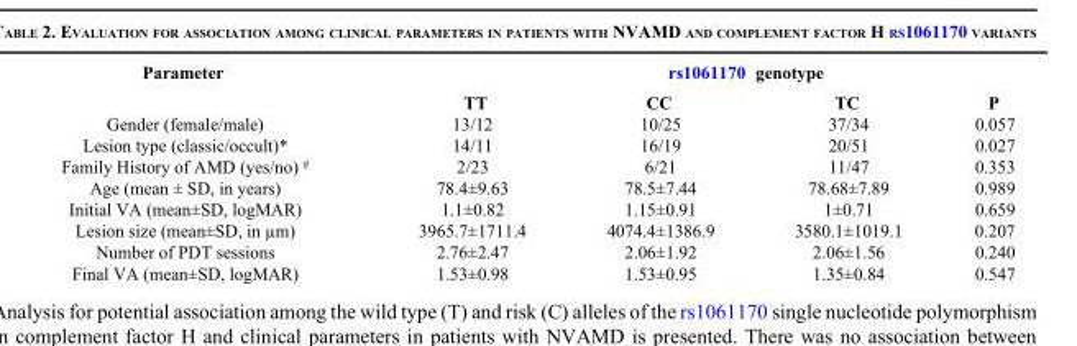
<table><thead><tr><td rowspan="2">Parameter</td><td colspan="4">rs1061170 genotype</td></tr><tr><td>TT</td><td>CC</td><td>TC</td><td>P</td></tr></thead><tbody><tr><td>Gender (female/male)</td><td>13/12</td><td>10/25</td><td>37/34</td><td>0.057</td></tr><tr><td>Lesion type (classic/occult)*</td><td>14/11</td><td>16/19</td><td>20/51</td><td>0.027</td></tr><tr><td>Family History of AMD (yes/no) <sup>#</sup></td><td>2/23</td><td>6/21</td><td>11/47</td><td>0.353</td></tr><tr><td>Age (mean ± SD, in years)</td><td>78.4±9.63</td><td>78.5±7.44</td><td>78.68±7.89</td><td>0.989</td></tr><tr><td>Initial VA (mean±SD, logMAR)</td><td>1.1±0.82</td><td>1.15±0.91</td><td>1±0.71</td><td>0.659</td></tr><tr><td>Lesion size (mean±SD, in µm)</td><td>3965.7±1711.4</td><td>4074.4±1386.9</td><td>3580.1±1019.1</td><td>0.207</td></tr><tr><td>Number of PDT sessions</td><td>2.76±2.47</td><td>2.06±1.92</td><td>2.06±1.56</td><td>0.240</td></tr><tr><td>Final VA (mean±SD, logMAR)</td><td>1.53±0.98</td><td>1.53±0.95</td><td>1.35±0.84</td><td>0.547</td></tr></tbody></table>